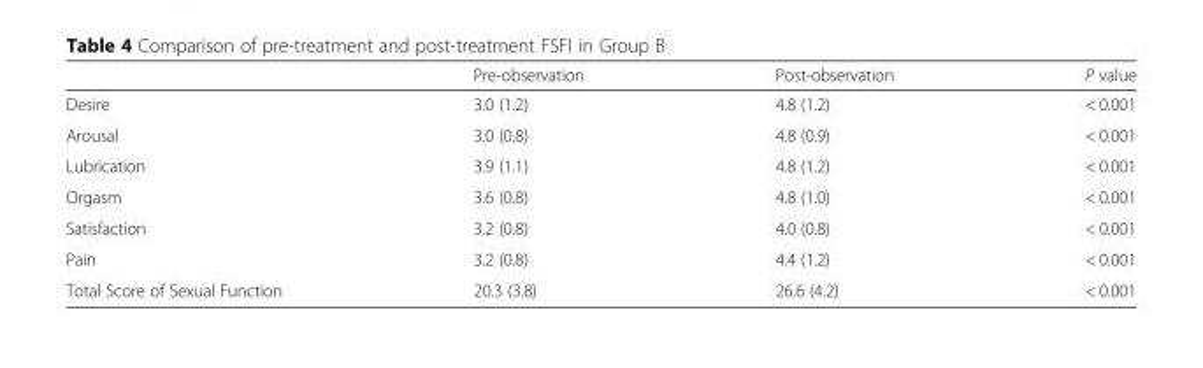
<table><thead><tr><td></td><td>Pre-observation</td><td>Post-observation</td><td>P value</td></tr></thead><tbody><tr><td>Desire</td><td>3.0 (1.2)</td><td>4.8 (1.2)</td><td>&lt; 0.001</td></tr><tr><td>Arousal</td><td>3.0 (0.8)</td><td>4.8 (0.9)</td><td>&lt; 0.001</td></tr><tr><td>Lubrication</td><td>3.9 (1.1)</td><td>4.8 (1.2)</td><td>&lt; 0.001</td></tr><tr><td>Orgasm</td><td>3.6 (0.8)</td><td>4.8 (1.0)</td><td>&lt; 0.001</td></tr><tr><td>Satisfaction</td><td>3.2 (0.8)</td><td>4.0 (0.8)</td><td>&lt; 0.001</td></tr><tr><td>Pain</td><td>3.2 (0.8)</td><td>4.4 (1.2)</td><td>&lt; 0.001</td></tr><tr><td>Total Score of Sexual Function</td><td>20.3 (3.8)</td><td>26.6 (4.2)</td><td>&lt; 0.001</td></tr></tbody></table>